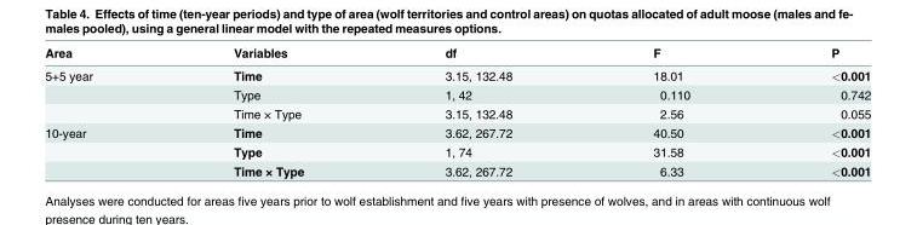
<table><thead><tr><td>Area</td><td>Variables</td><td>df</td><td>F</td><td>P</td></tr></thead><tbody><tr><td rowspan="3">5+5 year</td><td>Time</td><td>3.15, 132.48</td><td>18.01</td><td>&lt;0.001</td></tr><tr><td>Type</td><td>1, 42</td><td>0.110</td><td>0.742</td></tr><tr><td>Time × Type</td><td>3.15, 132.48</td><td>2.56</td><td>0.055</td></tr><tr><td rowspan="3">10-year</td><td>Time</td><td>3.62, 267.72</td><td>40.50</td><td>&lt;0.001</td></tr><tr><td>Type</td><td>1, 74</td><td>31.58</td><td>&lt;0.001</td></tr><tr><td>Time × Type</td><td>3.62, 267.72</td><td>6.33</td><td>&lt;0.001</td></tr></tbody></table>